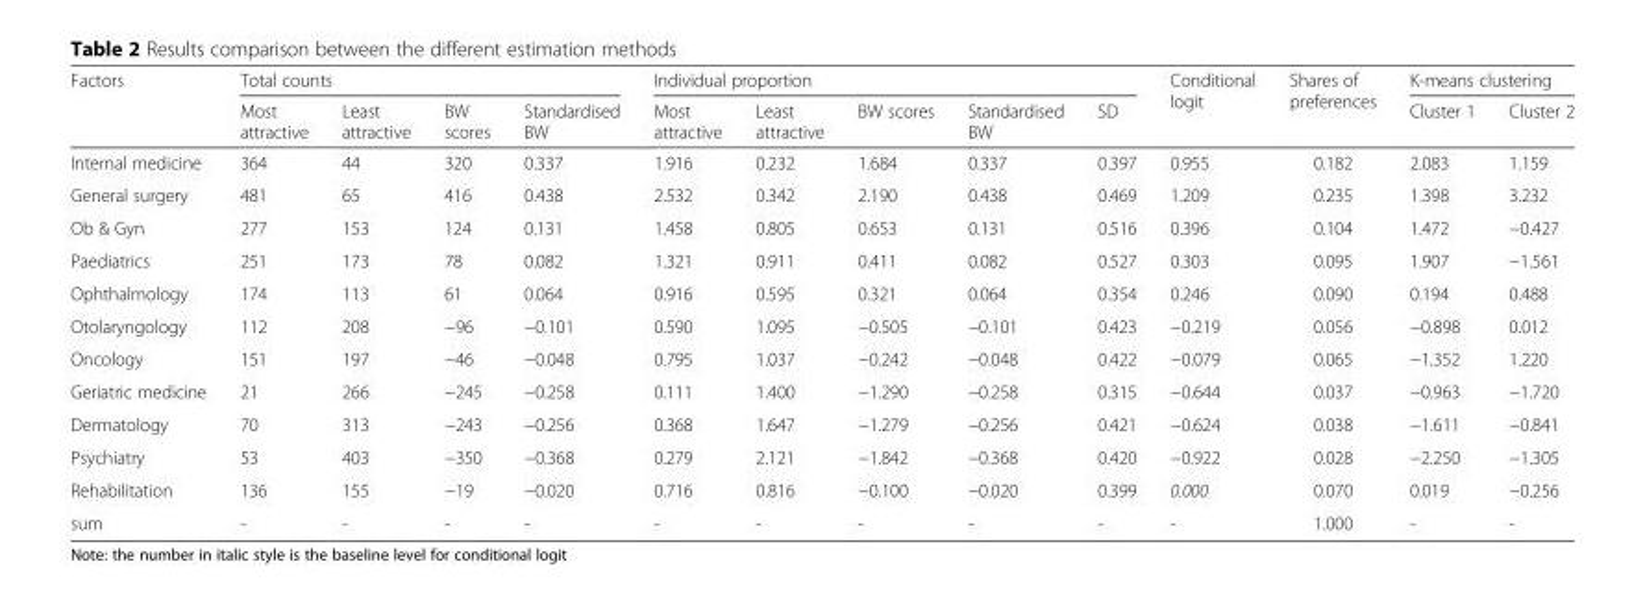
<table><thead><tr><td rowspan="2">Factors</td><td colspan="4">Total counts</td><td colspan="5">Individual proportion</td><td rowspan="2">Conditional logit</td><td rowspan="2">Shares of preferences</td><td colspan="2">K-means clustering</td></tr><tr><td>Most attractive</td><td>Least attractive</td><td>BW scores</td><td>Standardised BW</td><td>Most attractive</td><td>Least attractive</td><td>BW scores</td><td>Standardised BW</td><td>SD</td><td>Cluster 1</td><td>Cluster 2</td></tr></thead><tbody><tr><td>Internal medicine</td><td>364</td><td>44</td><td>320</td><td>0.337</td><td>1.916</td><td>0.232</td><td>1.684</td><td>0.337</td><td>0.397</td><td>0.955</td><td>0.182</td><td>2.083</td><td>1.159</td></tr><tr><td>General surgery</td><td>481</td><td>65</td><td>416</td><td>0.438</td><td>2.532</td><td>0.342</td><td>2.190</td><td>0.438</td><td>0.469</td><td>1.209</td><td>0.235</td><td>1.398</td><td>3.232</td></tr><tr><td>Ob &amp; Gyn</td><td>277</td><td>153</td><td>124</td><td>0.131</td><td>1.458</td><td>0.805</td><td>0.653</td><td>0.131</td><td>0.516</td><td>0.396</td><td>0.104</td><td>1.472</td><td>−0.427</td></tr><tr><td>Paediatrics</td><td>251</td><td>173</td><td>78</td><td>0.082</td><td>1.321</td><td>0.911</td><td>0.411</td><td>0.082</td><td>0.527</td><td>0.303</td><td>0.095</td><td>1.907</td><td>−1.561</td></tr><tr><td>Ophthalmology</td><td>174</td><td>113</td><td>61</td><td>0.064</td><td>0.916</td><td>0.595</td><td>0.321</td><td>0.064</td><td>0.354</td><td>0.246</td><td>0.090</td><td>0.194</td><td>0.488</td></tr><tr><td>Otolaryngology</td><td>112</td><td>208</td><td>−96</td><td>−0.101</td><td>0.590</td><td>1.095</td><td>−0.505</td><td>−0.101</td><td>0.423</td><td>−0.219</td><td>0.056</td><td>−0.898</td><td>0.012</td></tr><tr><td>Oncology</td><td>151</td><td>197</td><td>−46</td><td>−0.048</td><td>0.795</td><td>1.037</td><td>−0.242</td><td>−0.048</td><td>0.422</td><td>−0.079</td><td>0.065</td><td>−1.352</td><td>1.220</td></tr><tr><td>Geriatric medicine</td><td>21</td><td>266</td><td>−245</td><td>−0.258</td><td>0.111</td><td>1.400</td><td>−1.290</td><td>−0.258</td><td>0.315</td><td>−0.644</td><td>0.037</td><td>−0.963</td><td>−1.720</td></tr><tr><td>Dermatology</td><td>70</td><td>313</td><td>−243</td><td>−0.256</td><td>0.368</td><td>1.647</td><td>−1.279</td><td>−0.256</td><td>0.421</td><td>−0.624</td><td>0.038</td><td>−1.611</td><td>−0.841</td></tr><tr><td>Psychiatry</td><td>53</td><td>403</td><td>−350</td><td>−0.368</td><td>0.279</td><td>2.121</td><td>−1.842</td><td>−0.368</td><td>0.420</td><td>−0.922</td><td>0.028</td><td>−2.250</td><td>−1.305</td></tr><tr><td>Rehabilitation</td><td>136</td><td>155</td><td>−19</td><td>−0.020</td><td>0.716</td><td>0.816</td><td>−0.100</td><td>−0.020</td><td>0.399</td><td>0.000</td><td>0.070</td><td>0.019</td><td>−0.256</td></tr><tr><td>sum</td><td>-</td><td>-</td><td>-</td><td>-</td><td>-</td><td>-</td><td>-</td><td>-</td><td>-</td><td>-</td><td>1.000</td><td>-</td><td>-</td></tr></tbody></table>